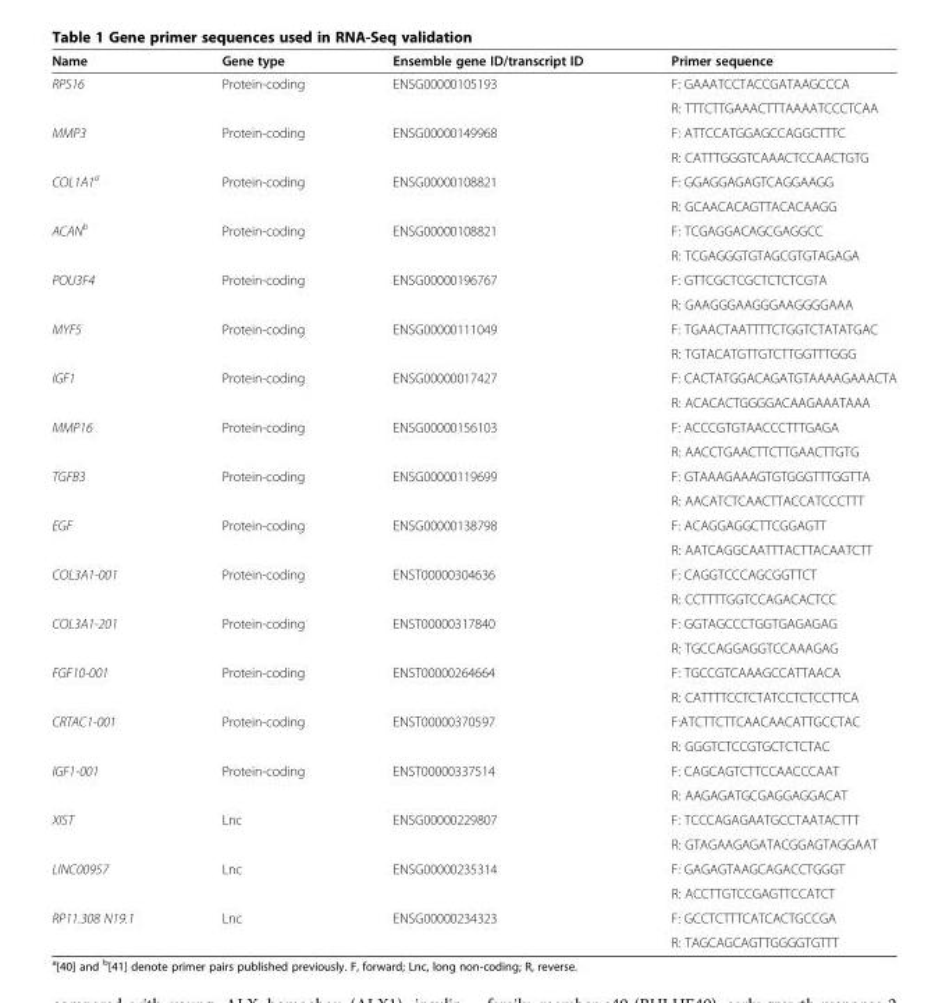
<table><thead><tr><td>Name</td><td>Gene type</td><td>Ensemble gene ID/transcript ID</td><td>Primer sequence</td></tr></thead><tbody><tr><td rowspan="2">RPS16</td><td rowspan="2">Protein-coding</td><td rowspan="2">ENSG00000105193</td><td>F: GAAATCCTACCGATAAGCCCA</td></tr><tr><td>R: TTTCTTGAAACTTTAAAATCCCTCAA</td></tr><tr><td rowspan="2">MMP3</td><td rowspan="2">Protein-coding</td><td rowspan="2">ENSG00000149968</td><td>F: ATTCCATGGAGCCAGGCTTTC</td></tr><tr><td>R: CATTTGGGTCAAACTCCAACTGTG</td></tr><tr><td rowspan="2">COL1A1<sup>a</sup></td><td rowspan="2">Protein-coding</td><td rowspan="2">ENSG00000108821</td><td>F: GGAGGAGAGTCAGGAAGG</td></tr><tr><td>R: GCAACACAGTTACACAAGG</td></tr><tr><td rowspan="2">ACAN<sup>b</sup></td><td rowspan="2">Protein-coding</td><td rowspan="2">ENSG00000108821</td><td>F: TCGAGGACAGCGAGGCC</td></tr><tr><td>R: TCGAGGGTGTAGCGTGTAGAGA</td></tr><tr><td rowspan="2">POU3F4</td><td rowspan="2">Protein-coding</td><td rowspan="2">ENSG00000196767</td><td>F: GTTCGCTCGCTCTCTCGTA</td></tr><tr><td>R: GAAGGGAAGGGAAGGGGAAA</td></tr><tr><td rowspan="2">MYF5</td><td rowspan="2">Protein-coding</td><td rowspan="2">ENSG00000111049</td><td>F: TGAACTAATTTTCTGGTCTATATGAC</td></tr><tr><td>R: TGTACATGTTGTCTTGGTTTGGG</td></tr><tr><td rowspan="2">IGF1</td><td rowspan="2">Protein-coding</td><td rowspan="2">ENSG00000017427</td><td>F: CACTATGGACAGATGTAAAAGAAACTA</td></tr><tr><td>R: ACACACTGGGGACAAGAAATAAA</td></tr><tr><td rowspan="2">MMP16</td><td rowspan="2">Protein-coding</td><td rowspan="2">ENSG00000156103</td><td>F: ACCCGTGTAACCCTTTGAGA</td></tr><tr><td>R: AACCTGAACTTCTTGAACTTGTG</td></tr><tr><td rowspan="2">TGFB3</td><td rowspan="2">Protein-coding</td><td rowspan="2">ENSG00000119699</td><td>F: GTAAAGAAAGTGTGGGTTTGGTTA</td></tr><tr><td>R: AACATCTCAACTTACCATCCCTTT</td></tr><tr><td rowspan="2">EGF</td><td rowspan="2">Protein-coding</td><td rowspan="2">ENSG00000138798</td><td>F: ACAGGAGGCTTCGGAGTT</td></tr><tr><td>R: AATCAGGCAATTTACTTACAATCTT</td></tr><tr><td rowspan="2">COL3A1-001</td><td rowspan="2">Protein-coding</td><td rowspan="2">ENST00000304636</td><td>F: CAGGTCCCAGCGGTTCT</td></tr><tr><td>R: CCTTTTGGTCCAGACACTCC</td></tr><tr><td rowspan="2">COL3A1-201</td><td rowspan="2">Protein-coding</td><td rowspan="2">ENST00000317840</td><td>F: GGTAGCCCTGGTGAGAGAG</td></tr><tr><td>R: TGCCAGGAGGTCCAAAGAG</td></tr><tr><td rowspan="2">FGF10-001</td><td rowspan="2">Protein-coding</td><td rowspan="2">ENST00000264664</td><td>F: TGCCGTCAAAGCCATTAACA</td></tr><tr><td>R: CATTTTCCTCTATCCTCTCCTTCA</td></tr><tr><td rowspan="2">CRTAC1-001</td><td rowspan="2">Protein-coding</td><td rowspan="2">ENST00000370597</td><td>F:ATCTTCTTCAACAACATTGCCTAC</td></tr><tr><td>R: GGGTCTCCGTGCTCTCTAC</td></tr><tr><td rowspan="2">IGF1-001</td><td rowspan="2">Protein-coding</td><td rowspan="2">ENST00000337514</td><td>F: CAGCAGTCTTCCAACCCAAT</td></tr><tr><td>R: AAGAGATGCGAGGAGGACAT</td></tr><tr><td rowspan="2">XIST</td><td rowspan="2">Lnc</td><td rowspan="2">ENSG00000229807</td><td>F: TCCCAGAGAATGCCTAATACTTT</td></tr><tr><td>R: GTAGAAGAGATACGGAGTAGGAAT</td></tr><tr><td rowspan="2">LINC00957</td><td rowspan="2">Lnc</td><td rowspan="2">ENSG00000235314</td><td>F: GAGAGTAAGCAGACCTGGGT</td></tr><tr><td>R: ACCTTGTCCGAGTTCCATCT</td></tr><tr><td rowspan="2">RP11.308 N19.1</td><td rowspan="2">Lnc</td><td rowspan="2">ENSG00000234323</td><td>F: GCCTCTTTCATCACTGCCGA</td></tr><tr><td>R: TAGCAGCAGTTGGGGTGTTT</td></tr></tbody></table>